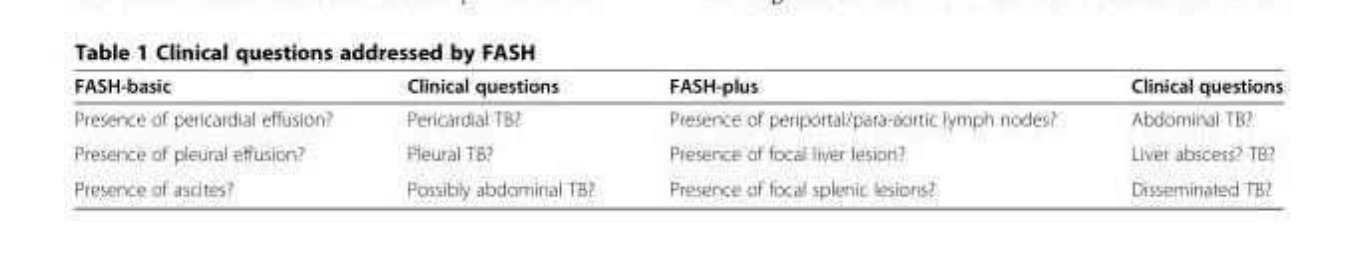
<table><thead><tr><td>FASH-basic</td><td>Clinical questions</td><td>FASH-plus</td><td>Clinical questions</td></tr></thead><tbody><tr><td>Presence of pericardial effusion?</td><td>Pericardial TB?</td><td>Presence of periportal/para-aortic lymph nodes?</td><td>Abdominal TB?</td></tr><tr><td>Presence of pleural effusion?</td><td>Pleural TB?</td><td>Presence of focal liver lesion?</td><td>Liver abscess? TB?</td></tr><tr><td>Presence of ascites?</td><td>Possibly abdominal TB?</td><td>Presence of focal splenic lesions?</td><td>Disseminated TB?</td></tr></tbody></table>